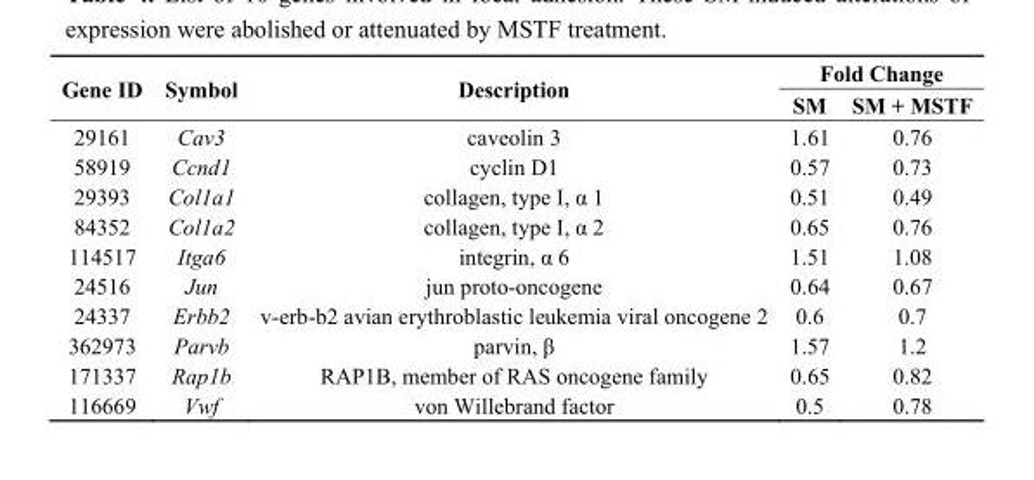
<table><thead><tr><td rowspan="2">Gene ID</td><td rowspan="2">Symbol</td><td rowspan="2">Description</td><td colspan="2">Fold Change</td></tr><tr><td>SM</td><td>SM + MSTF</td></tr></thead><tbody><tr><td>29161</td><td>Cav3</td><td>caveolin 3</td><td>1.61</td><td>0.76</td></tr><tr><td>58919</td><td>Ccnd1</td><td>cyclin D1</td><td>0.57</td><td>0.73</td></tr><tr><td>29393</td><td>Col1a1</td><td>collagen, type I, α 1</td><td>0.51</td><td>0.49</td></tr><tr><td>84352</td><td>Col1a2</td><td>collagen, type I, α 2</td><td>0.65</td><td>0.76</td></tr><tr><td>114517</td><td>Itga6</td><td>integrin, α 6</td><td>1.51</td><td>1.08</td></tr><tr><td>24516</td><td>Jun</td><td>jun proto-oncogene</td><td>0.64</td><td>0.67</td></tr><tr><td>24337</td><td>Erbb2</td><td>v-erb-b2 avian erythroblastic leukemia viral oncogene 2</td><td>0.6</td><td>0.7</td></tr><tr><td>362973</td><td>Parvb</td><td>parvin, β</td><td>1.57</td><td>1.2</td></tr><tr><td>171337</td><td>Rap1b</td><td>RAP1B, member of RAS oncogene family</td><td>0.65</td><td>0.82</td></tr><tr><td>116669</td><td>Vwf</td><td>von Willebrand factor</td><td>0.5</td><td>0.78</td></tr></tbody></table>